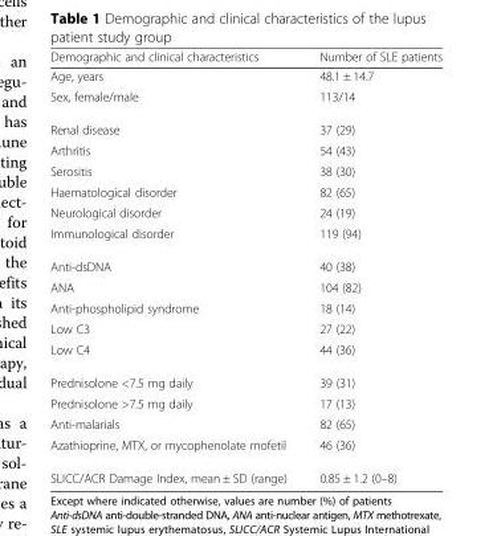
<table><thead><tr><td>Demographic and clinical characteristics</td><td>Number of SLE patients</td></tr></thead><tbody><tr><td>Age, years</td><td>48.1 ± 14.7</td></tr><tr><td>Sex, female/male</td><td>113/14</td></tr><tr><td>Renal disease</td><td>37 (29)</td></tr><tr><td>Arthritis</td><td>54 (43)</td></tr><tr><td>Serositis</td><td>38 (30)</td></tr><tr><td>Haematological disorder</td><td>82 (65)</td></tr><tr><td>Neurological disorder</td><td>24 (19)</td></tr><tr><td>Immunological disorder</td><td>119 (94)</td></tr><tr><td>Anti-dsDNA</td><td>40 (38)</td></tr><tr><td>ANA</td><td>104 (82)</td></tr><tr><td>Anti-phospholipid syndrome</td><td>18 (14)</td></tr><tr><td>Low C3</td><td>27 (22)</td></tr><tr><td>Low C4</td><td>44 (36)</td></tr><tr><td>Prednisolone &lt;7.5 mg daily</td><td>39 (31)</td></tr><tr><td>Prednisolone &gt;7.5 mg daily</td><td>17 (13)</td></tr><tr><td>Anti-malarials</td><td>82 (65)</td></tr><tr><td>Azathioprine, MTX, or mycophenolate mofetil</td><td>46 (36)</td></tr><tr><td>SLICC/ACR Damage Index, mean ± SD (range)</td><td>0.85 ± 1.2 (0–8)</td></tr></tbody></table>